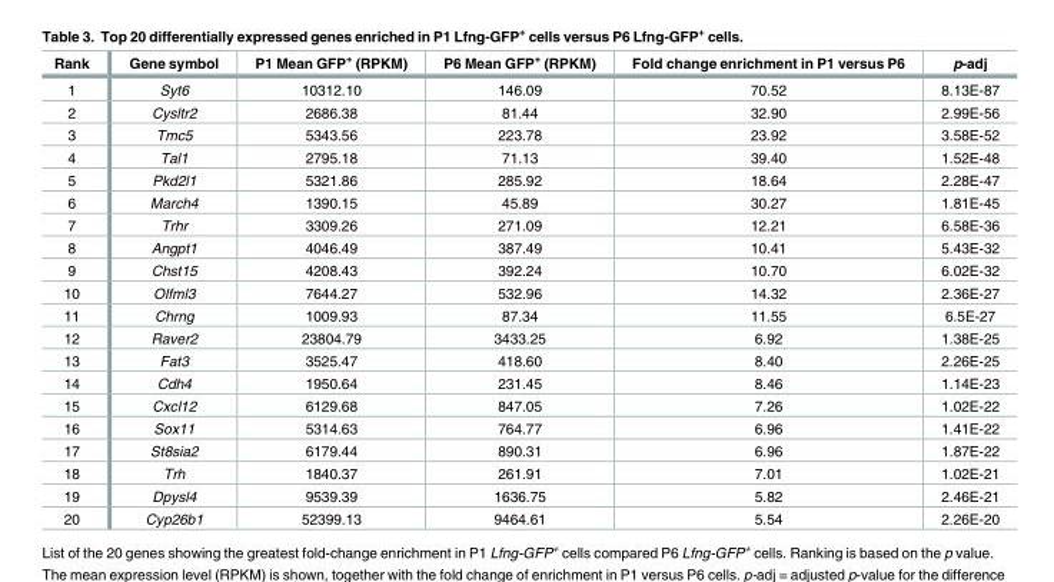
<table><thead><tr><td>Rank</td><td>Gene symbol</td><td>P1 Mean GFP<sup>+</sup> (RPKM)</td><td>P6 Mean GFP<sup>+</sup> (RPKM)</td><td>Fold change enrichment in P1 versus P6</td><td>p-adj</td></tr></thead><tbody><tr><td>1</td><td>Syt6</td><td>10312.10</td><td>146.09</td><td>70.52</td><td>8.13E-87</td></tr><tr><td>2</td><td>Cysltr2</td><td>2686.38</td><td>81.44</td><td>32.90</td><td>2.99E-56</td></tr><tr><td>3</td><td>Tmc5</td><td>5343.56</td><td>223.78</td><td>23.92</td><td>3.58E-52</td></tr><tr><td>4</td><td>Tal1</td><td>2795.18</td><td>71.13</td><td>39.40</td><td>1.52E-48</td></tr><tr><td>5</td><td>Pkd2l1</td><td>5321.86</td><td>285.92</td><td>18.64</td><td>2.28E-47</td></tr><tr><td>6</td><td>March4</td><td>1390.15</td><td>45.89</td><td>30.27</td><td>1.81E-45</td></tr><tr><td>7</td><td>Trhr</td><td>3309.26</td><td>271.09</td><td>12.21</td><td>6.58E-36</td></tr><tr><td>8</td><td>Angpt1</td><td>4046.49</td><td>387.49</td><td>10.41</td><td>5.43E-32</td></tr><tr><td>9</td><td>Chst15</td><td>4208.43</td><td>392.24</td><td>10.70</td><td>6.02E-32</td></tr><tr><td>10</td><td>Olfml3</td><td>7644.27</td><td>532.96</td><td>14.32</td><td>2.36E-27</td></tr><tr><td>11</td><td>Chrng</td><td>1009.93</td><td>87.34</td><td>11.55</td><td>6.5E-27</td></tr><tr><td>12</td><td>Raver2</td><td>23804.79</td><td>3433.25</td><td>6.92</td><td>1.38E-25</td></tr><tr><td>13</td><td>Fat3</td><td>3525.47</td><td>418.60</td><td>8.40</td><td>2.26E-25</td></tr><tr><td>14</td><td>Cdh4</td><td>1950.64</td><td>231.45</td><td>8.46</td><td>1.14E-23</td></tr><tr><td>15</td><td>Cxcl12</td><td>6129.68</td><td>847.05</td><td>7.26</td><td>1.02E-22</td></tr><tr><td>16</td><td>Sox11</td><td>5314.63</td><td>764.77</td><td>6.96</td><td>1.41E-22</td></tr><tr><td>17</td><td>St8sia2</td><td>6179.44</td><td>890.31</td><td>6.96</td><td>1.87E-22</td></tr><tr><td>18</td><td>Trh</td><td>1840.37</td><td>261.91</td><td>7.01</td><td>1.02E-21</td></tr><tr><td>19</td><td>Dpysl4</td><td>9539.39</td><td>1636.75</td><td>5.82</td><td>2.46E-21</td></tr><tr><td>20</td><td>Cyp26b1</td><td>52399.13</td><td>9464.61</td><td>5.54</td><td>2.26E-20</td></tr></tbody></table>